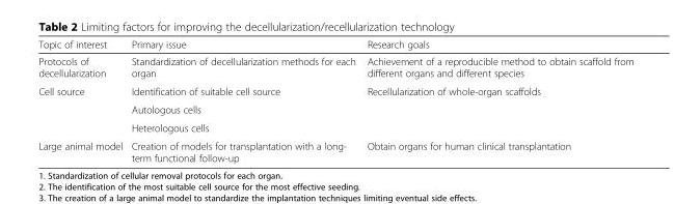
<table><thead><tr><td>Topic of interest</td><td>Primary issue</td><td>Research goals</td></tr></thead><tbody><tr><td>Protocols of decellularization</td><td>Standardization of decellularization methods for each organ</td><td>Achievement of a reproducible method to obtain scaffold from different organs and different species</td></tr><tr><td rowspan="3">Cell source</td><td>Identification of suitable cell source</td><td rowspan="3">Recellularization of whole-organ scaffolds</td></tr><tr><td>Autologous cells</td></tr><tr><td>Heterologous cells</td></tr><tr><td>Large animal model</td><td>Creation of models for transplantation with a long- term functional follow-up</td><td>Obtain organs for human clinical transplantation</td></tr></tbody></table>